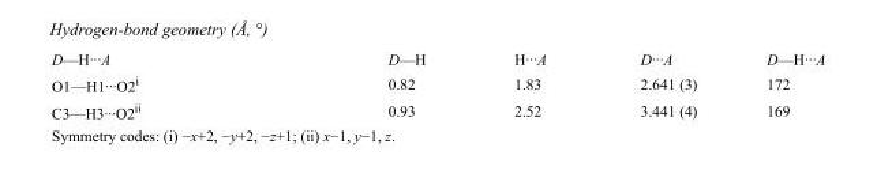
<table><tbody><tr><td>D—H···A</td><td>D—H</td><td>H···A</td><td>D···A</td><td>D—H···A</td></tr><tr><td>O1—H1···O2<sup>i</sup></td><td>0.82</td><td>1.83</td><td>2.641 (3)</td><td>172</td></tr><tr><td>C3—H3···O2<sup>ii</sup></td><td>0.93</td><td>2.52</td><td>3.441 (4)</td><td>169</td></tr></tbody></table>